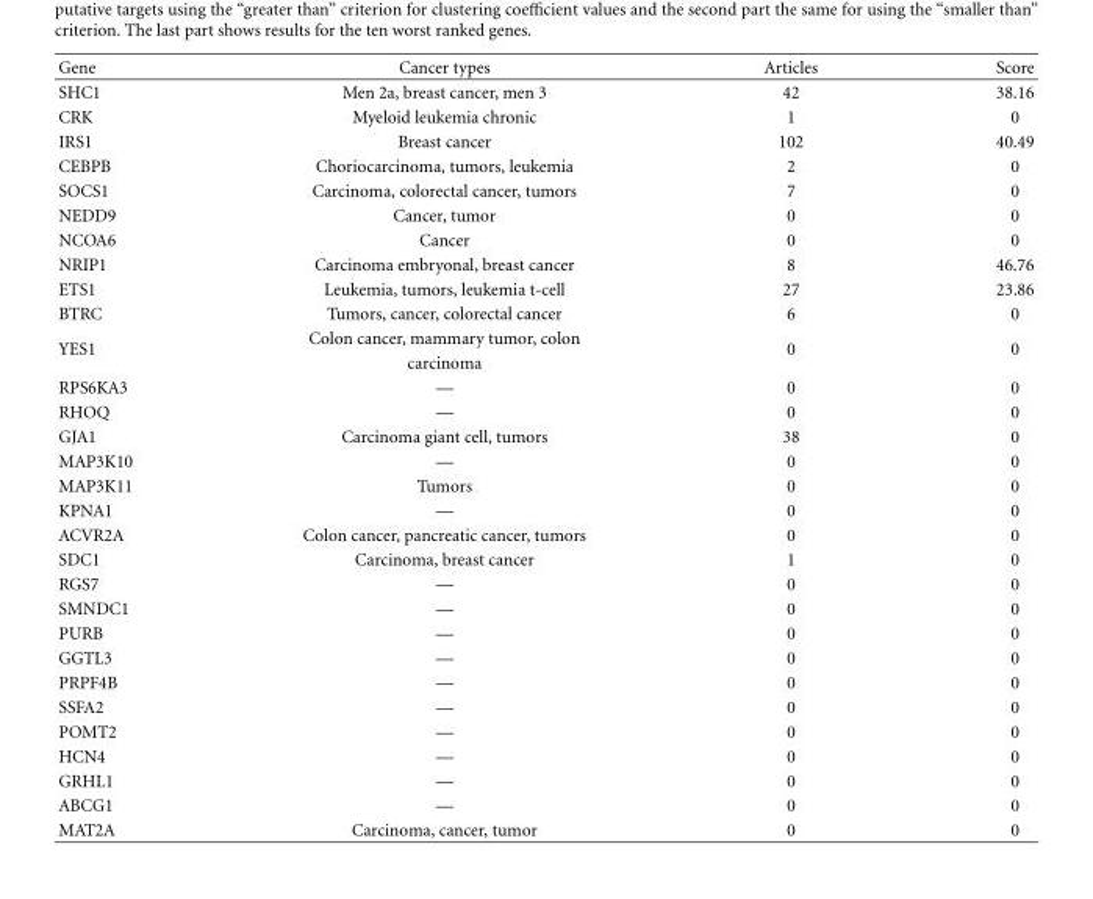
<table><thead><tr><td>Gene</td><td>Cancer types</td><td>Articles</td><td>Score</td></tr></thead><tbody><tr><td>SHC1</td><td>Men 2a, breast cancer, men 3</td><td>42</td><td>38.16</td></tr><tr><td>CRK</td><td>Myeloid leukemia chronic</td><td>1</td><td>0</td></tr><tr><td>IRS1</td><td>Breast cancer</td><td>102</td><td>40.49</td></tr><tr><td>CEBPB</td><td>Choriocarcinoma, tumors, leukemia</td><td>2</td><td>0</td></tr><tr><td>SOCS1</td><td>Carcinoma, colorectal cancer, tumors</td><td>7</td><td>0</td></tr><tr><td>NEDD9</td><td>Cancer, tumor</td><td>0</td><td>0</td></tr><tr><td>NCOA6</td><td>Cancer</td><td>0</td><td>0</td></tr><tr><td>NRIP1</td><td>Carcinoma embryonal, breast cancer</td><td>8</td><td>46.76</td></tr><tr><td>ETS1</td><td>Leukemia, tumors, leukemia t-cell</td><td>27</td><td>23.86</td></tr><tr><td>BTRC</td><td>Tumors, cancer, colorectal cancer</td><td>6</td><td>0</td></tr><tr><td rowspan="2">YES1</td><td>Colon cancer, mammary tumor, colon</td><td rowspan="2">0</td><td rowspan="2">0</td></tr><tr><td>carcinoma</td></tr><tr><td>RPS6KA3</td><td>—</td><td>0</td><td>0</td></tr><tr><td>RHOQ</td><td>—</td><td>0</td><td>0</td></tr><tr><td>GJA1</td><td>Carcinoma giant cell, tumors</td><td>38</td><td>0</td></tr><tr><td>MAP3K10</td><td>—</td><td>0</td><td>0</td></tr><tr><td>MAP3K11</td><td>Tumors</td><td>0</td><td>0</td></tr><tr><td>KPNA1</td><td>—</td><td>0</td><td>0</td></tr><tr><td>ACVR2A</td><td>Colon cancer, pancreatic cancer, tumors</td><td>0</td><td>0</td></tr><tr><td>SDC1</td><td>Carcinoma, breast cancer</td><td>1</td><td>0</td></tr><tr><td>RGS7</td><td>—</td><td>0</td><td>0</td></tr><tr><td>SMNDC1</td><td>—</td><td>0</td><td>0</td></tr><tr><td>PURB</td><td>—</td><td>0</td><td>0</td></tr><tr><td>GGTL3</td><td>—</td><td>0</td><td>0</td></tr><tr><td>PRPF4B</td><td>—</td><td>0</td><td>0</td></tr><tr><td>SSFA2</td><td>—</td><td>0</td><td>0</td></tr><tr><td>POMT2</td><td>—</td><td>0</td><td>0</td></tr><tr><td>HCN4</td><td>—</td><td>0</td><td>0</td></tr><tr><td>GRHL1</td><td>—</td><td>0</td><td>0</td></tr><tr><td>ABCG1</td><td>—</td><td>0</td><td>0</td></tr><tr><td>MAT2A</td><td>Carcinoma, cancer, tumor</td><td>0</td><td>0</td></tr></tbody></table>